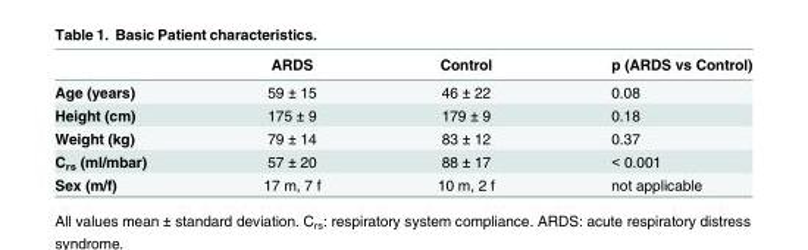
<table><thead><tr><td></td><td>ARDS</td><td>Control</td><td>p (ARDS vs Control)</td></tr></thead><tbody><tr><td>Age (years)</td><td>59 ± 15</td><td>46 ± 22</td><td>0.08</td></tr><tr><td>Height (cm)</td><td>175 ± 9</td><td>179 ± 9</td><td>0.18</td></tr><tr><td>Weight (kg)</td><td>79 ± 14</td><td>83 ± 12</td><td>0.37</td></tr><tr><td>C<sub>rs</sub> (ml/mbar)</td><td>57 ± 20</td><td>88 ± 17</td><td>&lt; 0.001</td></tr><tr><td>Sex (m/f)</td><td>17 m, 7 f</td><td>10 m, 2 f</td><td>not applicable</td></tr></tbody></table>